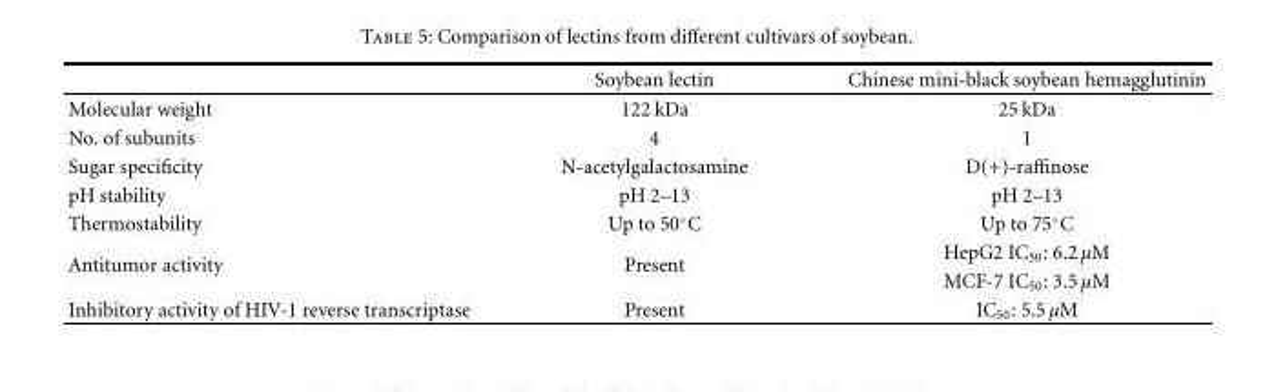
<table><thead><tr><td></td><td>Soybean lectin</td><td>Chinese mini-black soybean hemagglutinin</td></tr></thead><tbody><tr><td>Molecular weight</td><td>122 kDa</td><td>25 kDa</td></tr><tr><td>No. of subunits</td><td>4</td><td>1</td></tr><tr><td>Sugar specificity</td><td>N-acetylgalactosamine</td><td>D(+)-raffinose</td></tr><tr><td>pH stability</td><td>pH 2–13</td><td>pH 2–13</td></tr><tr><td>Thermostability</td><td>Up to 50◦C</td><td>Up to 75◦C</td></tr><tr><td rowspan="2">Antitumor activity</td><td rowspan="2">Present</td><td>HepG2 IC<sub>50</sub>: 6.2 μM</td></tr><tr><td>MCF-7 IC<sub>50</sub>: 3.5 μM</td></tr><tr><td>Inhibitory activity of HIV-1 reverse transcriptase</td><td>Present</td><td>IC<sub>50</sub>: 5.5 μM</td></tr></tbody></table>